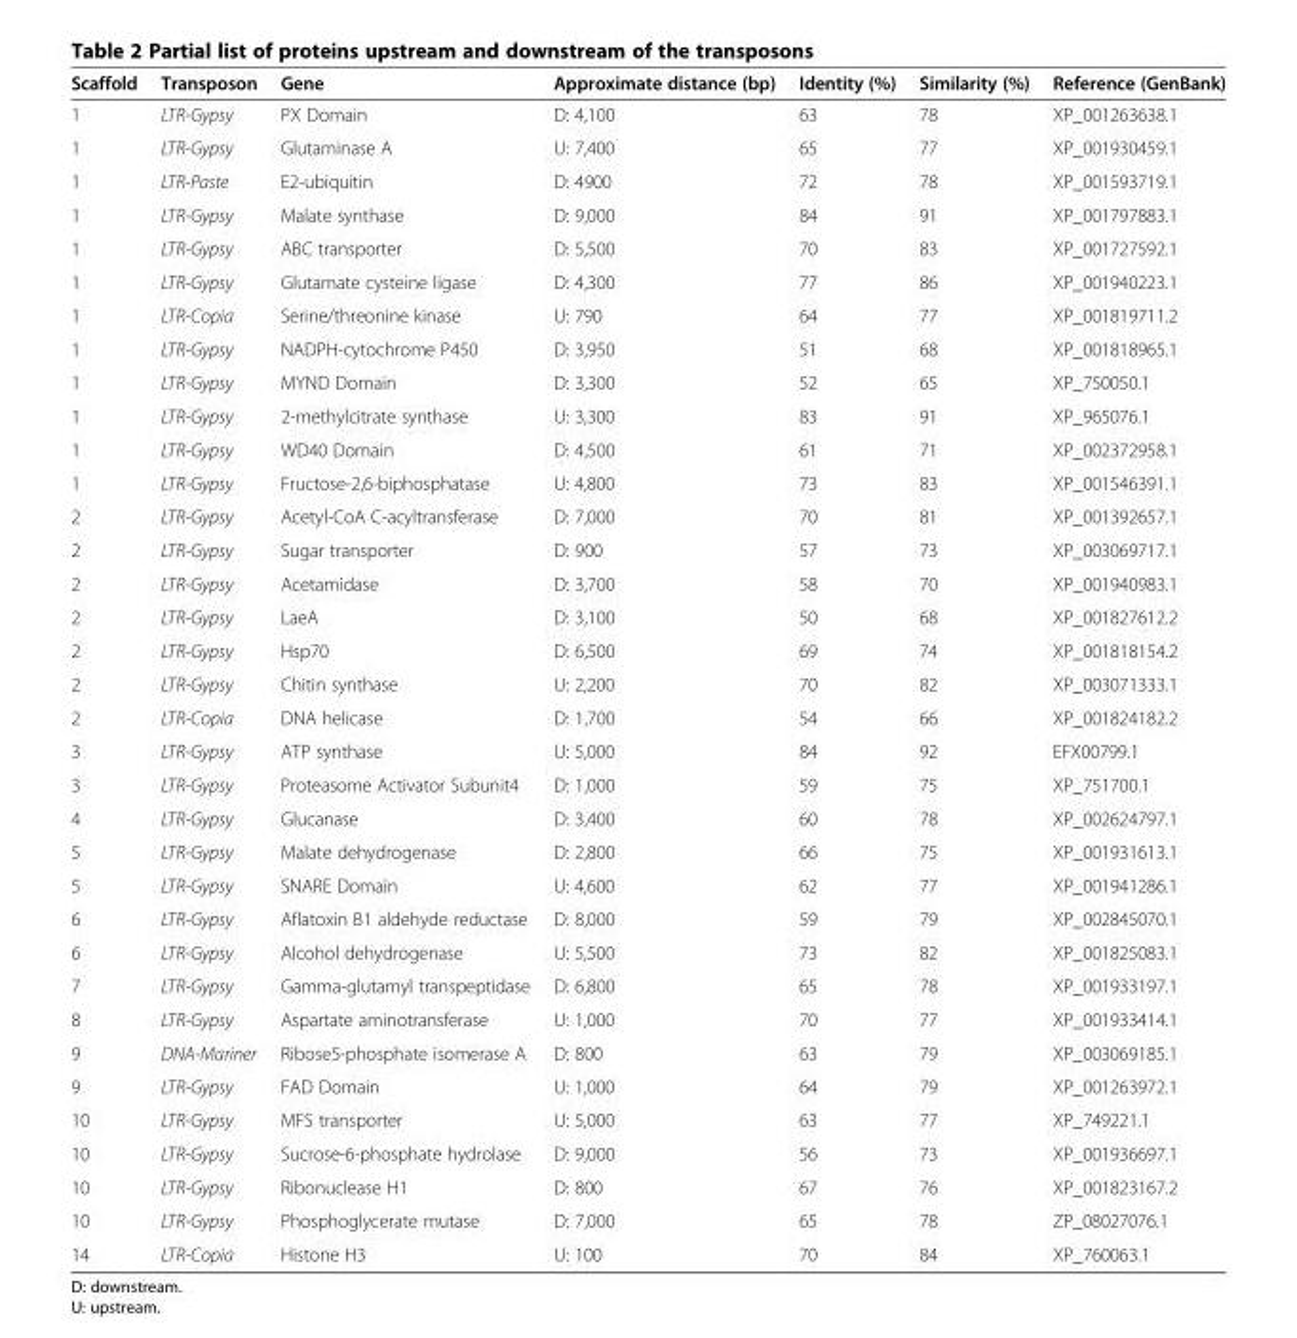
<table><thead><tr><td>Scaffold</td><td>Transposon</td><td>Gene</td><td>Approximate distance (bp)</td><td>Identity (%)</td><td>Similarity (%)</td><td>Reference (GenBank)</td></tr></thead><tbody><tr><td>1</td><td>LTR-Gypsy</td><td>PX Domain</td><td>D: 4,100</td><td>63</td><td>78</td><td>XP_001263638.1</td></tr><tr><td>1</td><td>LTR-Gypsy</td><td>Glutaminase A</td><td>U: 7,400</td><td>65</td><td>77</td><td>XP_001930459.1</td></tr><tr><td>1</td><td>LTR-Paste</td><td>E2-ubiquitin</td><td>D: 4900</td><td>72</td><td>78</td><td>XP_001593719.1</td></tr><tr><td>1</td><td>LTR-Gypsy</td><td>Malate synthase</td><td>D: 9,000</td><td>84</td><td>91</td><td>XP_001797883.1</td></tr><tr><td>1</td><td>LTR-Gypsy</td><td>ABC transporter</td><td>D: 5,500</td><td>70</td><td>83</td><td>XP_001727592.1</td></tr><tr><td>1</td><td>LTR-Gypsy</td><td>Glutamate cysteine ligase</td><td>D: 4,300</td><td>77</td><td>86</td><td>XP_001940223.1</td></tr><tr><td>1</td><td>LTR-Copia</td><td>Serine/threonine kinase</td><td>U: 790</td><td>64</td><td>77</td><td>XP_001819711.2</td></tr><tr><td>1</td><td>LTR-Gypsy</td><td>NADPH-cytochrome P450</td><td>D: 3,950</td><td>51</td><td>68</td><td>XP_001818965.1</td></tr><tr><td>1</td><td>LTR-Gypsy</td><td>MYND Domain</td><td>D: 3,300</td><td>52</td><td>65</td><td>XP_750050.1</td></tr><tr><td>1</td><td>LTR-Gypsy</td><td>2-methylcitrate synthase</td><td>U: 3,300</td><td>83</td><td>91</td><td>XP_965076.1</td></tr><tr><td>1</td><td>LTR-Gypsy</td><td>WD40 Domain</td><td>D: 4,500</td><td>61</td><td>71</td><td>XP_002372958.1</td></tr><tr><td>1</td><td>LTR-Gypsy</td><td>Fructose-2,6-biphosphatase</td><td>U: 4,800</td><td>73</td><td>83</td><td>XP_001546391.1</td></tr><tr><td>2</td><td>LTR-Gypsy</td><td>Acetyl-CoA C-acyltransferase</td><td>D: 7,000</td><td>70</td><td>81</td><td>XP_001392657.1</td></tr><tr><td>2</td><td>LTR-Gypsy</td><td>Sugar transporter</td><td>D: 900</td><td>57</td><td>73</td><td>XP_003069717.1</td></tr><tr><td>2</td><td>LTR-Gypsy</td><td>Acetamidase</td><td>D: 3,700</td><td>58</td><td>70</td><td>XP_001940983.1</td></tr><tr><td>2</td><td>LTR-Gypsy</td><td>LaeA</td><td>D: 3,100</td><td>50</td><td>68</td><td>XP_001827612.2</td></tr><tr><td>2</td><td>LTR-Gypsy</td><td>Hsp70</td><td>D: 6,500</td><td>69</td><td>74</td><td>XP_001818154.2</td></tr><tr><td>2</td><td>LTR-Gypsy</td><td>Chitin synthase</td><td>U: 2,200</td><td>70</td><td>82</td><td>XP_003071333.1</td></tr><tr><td>2</td><td>LTR-Copia</td><td>DNA helicase</td><td>D: 1,700</td><td>54</td><td>66</td><td>XP_001824182.2</td></tr><tr><td>3</td><td>LTR-Gypsy</td><td>ATP synthase</td><td>U: 5,000</td><td>84</td><td>92</td><td>EFX00799.1</td></tr><tr><td>3</td><td>LTR-Gypsy</td><td>Proteasome Activator Subunit4</td><td>D: 1,000</td><td>59</td><td>75</td><td>XP_751700.1</td></tr><tr><td>4</td><td>LTR-Gypsy</td><td>Glucanase</td><td>D: 3,400</td><td>60</td><td>78</td><td>XP_002624797.1</td></tr><tr><td>5</td><td>LTR-Gypsy</td><td>Malate dehydrogenase</td><td>D: 2,800</td><td>66</td><td>75</td><td>XP_001931613.1</td></tr><tr><td>5</td><td>LTR-Gypsy</td><td>SNARE Domain</td><td>U: 4,600</td><td>62</td><td>77</td><td>XP_001941286.1</td></tr><tr><td>6</td><td>LTR-Gypsy</td><td>Aflatoxin B1 aldehyde reductase</td><td>D: 8,000</td><td>59</td><td>79</td><td>XP_002845070.1</td></tr><tr><td>6</td><td>LTR-Gypsy</td><td>Alcohol dehydrogenase</td><td>U: 5,500</td><td>73</td><td>82</td><td>XP_001825083.1</td></tr><tr><td>7</td><td>LTR-Gypsy</td><td>Gamma-glutamyl transpeptidase</td><td>D: 6,800</td><td>65</td><td>78</td><td>XP_001933197.1</td></tr><tr><td>8</td><td>LTR-Gypsy</td><td>Aspartate aminotransferase</td><td>U: 1,000</td><td>70</td><td>77</td><td>XP_001933414.1</td></tr><tr><td>9</td><td>DNA-Mariner</td><td>Ribose5-phosphate isomerase A</td><td>D: 800</td><td>63</td><td>79</td><td>XP_003069185.1</td></tr><tr><td>9</td><td>LTR-Gypsy</td><td>FAD Domain</td><td>U: 1,000</td><td>64</td><td>79</td><td>XP_001263972.1</td></tr><tr><td>10</td><td>LTR-Gypsy</td><td>MFS transporter</td><td>U: 5,000</td><td>63</td><td>77</td><td>XP_749221.1</td></tr><tr><td>10</td><td>LTR-Gypsy</td><td>Sucrose-6-phosphate hydrolase</td><td>D: 9,000</td><td>56</td><td>73</td><td>XP_001936697.1</td></tr><tr><td>10</td><td>LTR-Gypsy</td><td>Ribonuclease H1</td><td>D: 800</td><td>67</td><td>76</td><td>XP_001823167.2</td></tr><tr><td>10</td><td>LTR-Gypsy</td><td>Phosphoglycerate mutase</td><td>D: 7,000</td><td>65</td><td>78</td><td>ZP_08027076.1</td></tr><tr><td>14</td><td>LTR-Copia</td><td>Histone H3</td><td>U: 100</td><td>70</td><td>84</td><td>XP_760063.1</td></tr></tbody></table>